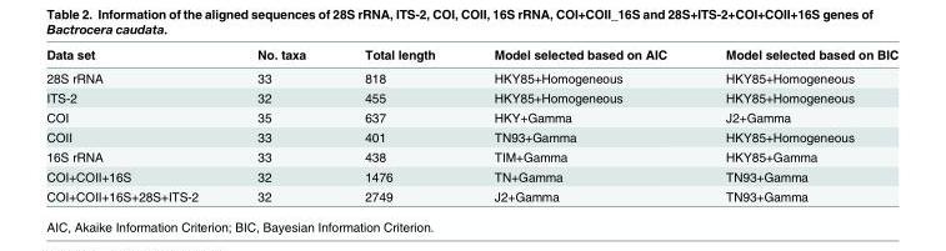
<table><thead><tr><td>Data set</td><td>No. taxa</td><td>Total length</td><td>Model selected based on AIC</td><td>Model selected based on BIC</td></tr></thead><tbody><tr><td>28S rRNA</td><td>33</td><td>818</td><td>HKY85+Homogeneous</td><td>HKY85+Homogeneous</td></tr><tr><td>ITS-2</td><td>32</td><td>455</td><td>HKY85+Homogeneous</td><td>HKY85+Homogeneous</td></tr><tr><td>COI</td><td>35</td><td>637</td><td>HKY+Gamma</td><td>J2+Gamma</td></tr><tr><td>COII</td><td>33</td><td>401</td><td>TN93+Gamma</td><td>HKY85+Homogeneous</td></tr><tr><td>16S rRNA</td><td>33</td><td>438</td><td>TIM+Gamma</td><td>HKY85+Gamma</td></tr><tr><td>COI+COII+16S</td><td>32</td><td>1476</td><td>TN+Gamma</td><td>TN93+Gamma</td></tr><tr><td>COI+COII+16S+28S+ITS-2</td><td>32</td><td>2749</td><td>J2+Gamma</td><td>TN93+Gamma</td></tr></tbody></table>